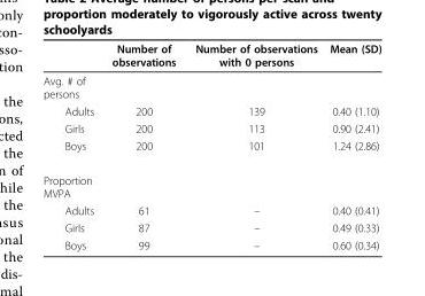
<table><thead><tr><td></td><td>Number of observations</td><td>Number of observations with 0 persons</td><td>Mean (SD)</td></tr></thead><tbody><tr><td colspan="4">Avg. # of persons</td></tr><tr><td>Adults</td><td>200</td><td>139</td><td>0.40 (1.10)</td></tr><tr><td>Girls</td><td>200</td><td>113</td><td>0.90 (2.41)</td></tr><tr><td>Boys</td><td>200</td><td>101</td><td>1.24 (2.86)</td></tr><tr><td colspan="4">Proportion MVPA</td></tr><tr><td>Adults</td><td>61</td><td>–</td><td>0.40 (0.41)</td></tr><tr><td>Girls</td><td>87</td><td>–</td><td>0.49 (0.33)</td></tr><tr><td>Boys</td><td>99</td><td>–</td><td>0.60 (0.34)</td></tr></tbody></table>